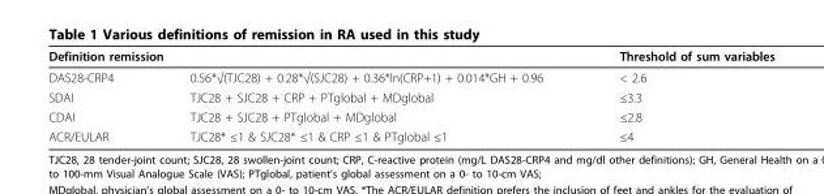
<table><thead><tr><td colspan="2">Definition remission</td><td rowspan="2">Threshold of sum variables &lt; 2.6</td></tr><tr><td>DAS28-CRP4</td><td>0.56*√(TJC28) + 0.28*√(SJC28) + 0.36*ln(CRP+1) + 0.014*GH + 0.96</td></tr></thead><tbody><tr><td>SDAI</td><td>TJC28 + SJC28 + CRP + PTglobal + MDglobal</td><td>≤3.3</td></tr><tr><td>CDAI</td><td>TJC28 + SJC28 + PTglobal + MDglobal</td><td>≤2.8</td></tr><tr><td>ACR/EULAR</td><td>TJC28* ≤1 &amp; SJC28* ≤1 &amp; CRP ≤1 &amp; PTglobal ≤1</td><td>≤4</td></tr></tbody></table>